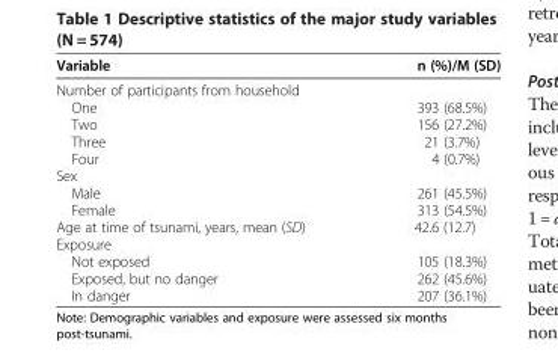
<table><thead><tr><td>Variable</td><td>n (%)/M (SD)</td></tr></thead><tbody><tr><td colspan="2">Number of participants from household</td></tr><tr><td>One</td><td>393 (68.5%)</td></tr><tr><td>Two</td><td>156 (27.2%)</td></tr><tr><td>Three</td><td>21 (3.7%)</td></tr><tr><td>Four</td><td>4 (0.7%)</td></tr><tr><td colspan="2">Sex</td></tr><tr><td>Male</td><td>261 (45.5%)</td></tr><tr><td>Female</td><td>313 (54.5%)</td></tr><tr><td>Age at time of tsunami, years, mean (SD)</td><td>42.6 (12.7)</td></tr><tr><td colspan="2">Exposure</td></tr><tr><td>Not exposed</td><td>105 (18.3%)</td></tr><tr><td>Exposed, but no danger</td><td>262 (45.6%)</td></tr><tr><td>In danger</td><td>207 (36.1%)</td></tr></tbody></table>